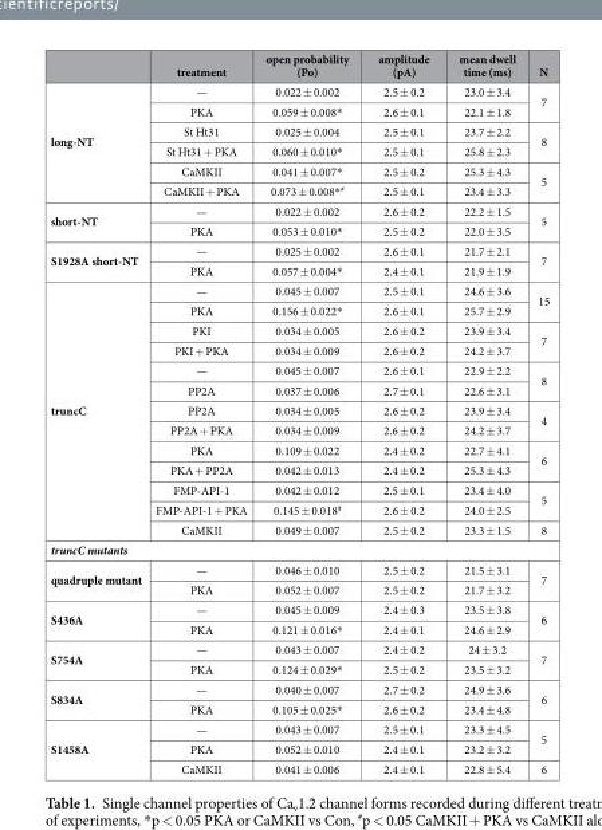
<table><thead><tr><td></td><td>treatment</td><td>open probability (Po)</td><td>amplitude (pA)</td><td>mean dwell time (ms)</td><td>N</td></tr></thead><tbody><tr><td rowspan="6">long-NT</td><td>—</td><td>0.022 ± 0.002</td><td>2.5 ± 0.2</td><td>23.0 ± 3.4</td><td rowspan="2">7</td></tr><tr><td>PKA</td><td>0.059 ± 0.008*</td><td>2.6 ± 0.1</td><td>22.1 ± 1.8</td></tr><tr><td>St Ht31</td><td>0.025 ± 0.004</td><td>2.5 ± 0.1</td><td>23.7 ± 2.2</td><td rowspan="2">8</td></tr><tr><td>St Ht31 + PKA</td><td>0.060 ± 0.010*</td><td>2.5 ± 0.1</td><td>25.8 ± 2.3</td></tr><tr><td>CaMKII</td><td>0.041 ± 0.007*</td><td>2.5 ± 0.2</td><td>25.3 ± 4.3</td><td rowspan="2">5</td></tr><tr><td>CaMKII + PKA</td><td>0.073 ± 0.008*<sup>#</sup></td><td>2.5 ± 0.1</td><td>23.4 ± 3.3</td></tr><tr><td rowspan="2">short-NT</td><td>—</td><td>0.022 ± 0.002</td><td>2.6 ± 0.2</td><td>22.2 ± 1.5</td><td rowspan="2">5</td></tr><tr><td>PKA</td><td>0.053 ± 0.010*</td><td>2.5 ± 0.2</td><td>22.0 ± 3.5</td></tr><tr><td rowspan="2">S1928A short-NT</td><td>—</td><td>0.025 ± 0.002</td><td>2.6 ± 0.1</td><td>21.7 ± 2.1</td><td rowspan="2">7</td></tr><tr><td>PKA</td><td>0.057 ± 0.004*</td><td>2.4 ± 0.1</td><td>21.9 ± 1.9</td></tr><tr><td rowspan="13">truncC</td><td>—</td><td>0.045 ± 0.007</td><td>2.5 ± 0.1</td><td>24.6 ± 3.6</td><td rowspan="2">15</td></tr><tr><td>PKA</td><td>0.156 ± 0.022*</td><td>2.6 ± 0.1</td><td>25.7 ± 2.9</td></tr><tr><td>PKI</td><td>0.034 ± 0.005</td><td>2.6 ± 0.2</td><td>23.9 ± 3.4</td><td rowspan="2">7</td></tr><tr><td>PKI + PKA</td><td>0.034 ± 0.009</td><td>2.6 ± 0.2</td><td>24.2 ± 3.7</td></tr><tr><td>—</td><td>0.045 ± 0.007</td><td>2.6 ± 0.1</td><td>22.9 ± 2.2</td><td rowspan="2">8</td></tr><tr><td>PP2A</td><td>0.037 ± 0.006</td><td>2.7 ± 0.1</td><td>22.6 ± 3.1</td></tr><tr><td>PP2A</td><td>0.034 ± 0.005</td><td>2.6 ± 0.2</td><td>23.9 ± 3.4</td><td rowspan="2">4</td></tr><tr><td>PP2A + PKA</td><td>0.034 ± 0.009</td><td>2.6 ± 0.2</td><td>24.2 ± 3.7</td></tr><tr><td>PKA</td><td>0.109 ± 0.022</td><td>2.4 ± 0.2</td><td>22.7 ± 4.1</td><td rowspan="2">6</td></tr><tr><td>PKA + PP2A</td><td>0.042 ± 0.013</td><td>2.4 ± 0.2</td><td>25.3 ± 4.3</td></tr><tr><td>FMP-API-1</td><td>0.042 ± 0.012</td><td>2.5 ± 0.1</td><td>23.4 ± 4.0</td><td rowspan="2">5</td></tr><tr><td>FMP-API-1 + PKA</td><td>0.145 ± 0.018<sup>‡</sup></td><td>2.6 ± 0.2</td><td>24.0 ± 2.5</td></tr><tr><td>CaMKII</td><td>0.049 ± 0.007</td><td>2.5 ± 0.2</td><td>23.3 ± 1.5</td><td>8</td></tr><tr><td colspan="6">truncC mutants</td></tr><tr><td rowspan="2">quadruple mutant</td><td>—</td><td>0.046 ± 0.010</td><td>2.5 ± 0.2</td><td>21.5 ± 3.1</td><td rowspan="2">7</td></tr><tr><td>PKA</td><td>0.052 ± 0.007</td><td>2.5 ± 0.2</td><td>21.7 ± 3.2</td></tr><tr><td rowspan="2">S436A</td><td>—</td><td>0.045 ± 0.009</td><td>2.4 ± 0.3</td><td>23.5 ± 3.8</td><td rowspan="2">6</td></tr><tr><td>PKA</td><td>0.121 ± 0.016*</td><td>2.4 ± 0.1</td><td>24.6 ± 2.9</td></tr><tr><td rowspan="2">S754A</td><td>—</td><td>0.043 ± 0.007</td><td>2.4 ± 0.2</td><td>24 ± 3.2</td><td rowspan="2">7</td></tr><tr><td>PKA</td><td>0.124 ± 0.029*</td><td>2.5 ± 0.2</td><td>23.5 ± 3.2</td></tr><tr><td rowspan="2">S834A</td><td>—</td><td>0.040 ± 0.007</td><td>2.7 ± 0.2</td><td>24.9 ± 3.6</td><td rowspan="2">6</td></tr><tr><td>PKA</td><td>0.105 ± 0.025*</td><td>2.6 ± 0.2</td><td>23.4 ± 4.8</td></tr><tr><td rowspan="3">S1458A</td><td>—</td><td>0.043 ± 0.007</td><td>2.5 ± 0.1</td><td>23.3 ± 4.5</td><td rowspan="2">5</td></tr><tr><td>PKA</td><td>0.052 ± 0.010</td><td>2.4 ± 0.1</td><td>23.2 ± 3.2</td></tr><tr><td>CaMKII</td><td>0.041 ± 0.006</td><td>2.4 ± 0.1</td><td>22.8 ± 5.4</td><td>6</td></tr></tbody></table>